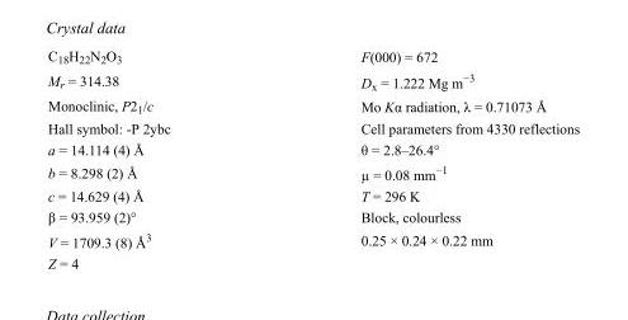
<table><tbody><tr><td>C<sub>18</sub>H<sub>22</sub>N<sub>2</sub>O<sub>3</sub></td><td>F(000) = 672</td></tr><tr><td>M<sub>r</sub> = 314.38</td><td>D<sub>x</sub> = 1.222 Mg m<sup>−3</sup></td></tr><tr><td>Monoclinic, P2<sub>1</sub>/c</td><td>Mo Kα radiation, λ = 0.71073 Å</td></tr><tr><td>Hall symbol: -P 2ybc</td><td>Cell parameters from 4330 reflections</td></tr><tr><td>a = 14.114 (4) Å</td><td>θ = 2.8–26.4°</td></tr><tr><td>b = 8.298 (2) Å</td><td>µ = 0.08 mm<sup>−1</sup></td></tr><tr><td>c = 14.629 (4) Å</td><td>T = 296 K</td></tr><tr><td>β = 93.959 (2)°</td><td>Block, colourless</td></tr><tr><td>V = 1709.3 (8) Å<sup>3</sup></td><td>0.25 × 0.24 × 0.22 mm</td></tr><tr><td>Z = 4</td><td></td></tr></tbody></table>